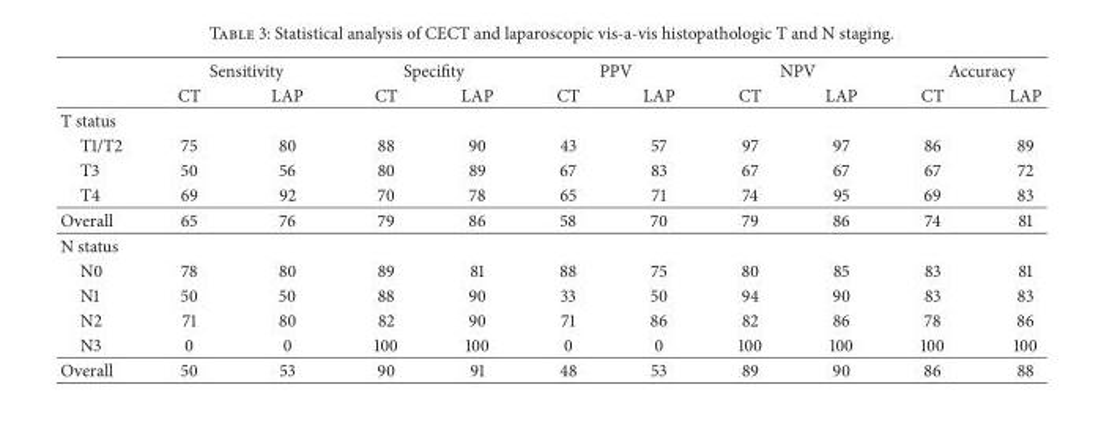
<table><thead><tr><td rowspan="2"></td><td colspan="2">Sensitivity</td><td colspan="2">Specifity</td><td colspan="2">PPV</td><td colspan="2">NPV</td><td colspan="2">Accuracy</td></tr><tr><td>CT</td><td>LAP</td><td>CT</td><td>LAP</td><td>CT</td><td>LAP</td><td>CT</td><td>LAP</td><td>CT</td><td>LAP</td></tr></thead><tbody><tr><td colspan="11">T status</td></tr><tr><td>T1/T2</td><td>75</td><td>80</td><td>88</td><td>90</td><td>43</td><td>57</td><td>97</td><td>97</td><td>86</td><td>89</td></tr><tr><td>T3</td><td>50</td><td>56</td><td>80</td><td>89</td><td>67</td><td>83</td><td>67</td><td>67</td><td>67</td><td>72</td></tr><tr><td>T4</td><td>69</td><td>92</td><td>70</td><td>78</td><td>65</td><td>71</td><td>74</td><td>95</td><td>69</td><td>83</td></tr><tr><td>Overall</td><td>65</td><td>76</td><td>79</td><td>86</td><td>58</td><td>70</td><td>79</td><td>86</td><td>74</td><td>81</td></tr><tr><td colspan="11">N status</td></tr><tr><td>N0</td><td>78</td><td>80</td><td>89</td><td>81</td><td>88</td><td>75</td><td>80</td><td>85</td><td>83</td><td>81</td></tr><tr><td>N1</td><td>50</td><td>50</td><td>88</td><td>90</td><td>33</td><td>50</td><td>94</td><td>90</td><td>83</td><td>83</td></tr><tr><td>N2</td><td>71</td><td>80</td><td>82</td><td>90</td><td>71</td><td>86</td><td>82</td><td>86</td><td>78</td><td>86</td></tr><tr><td>N3</td><td>0</td><td>0</td><td>100</td><td>100</td><td>0</td><td>0</td><td>100</td><td>100</td><td>100</td><td>100</td></tr><tr><td>Overall</td><td>50</td><td>53</td><td>90</td><td>91</td><td>48</td><td>53</td><td>89</td><td>90</td><td>86</td><td>88</td></tr></tbody></table>